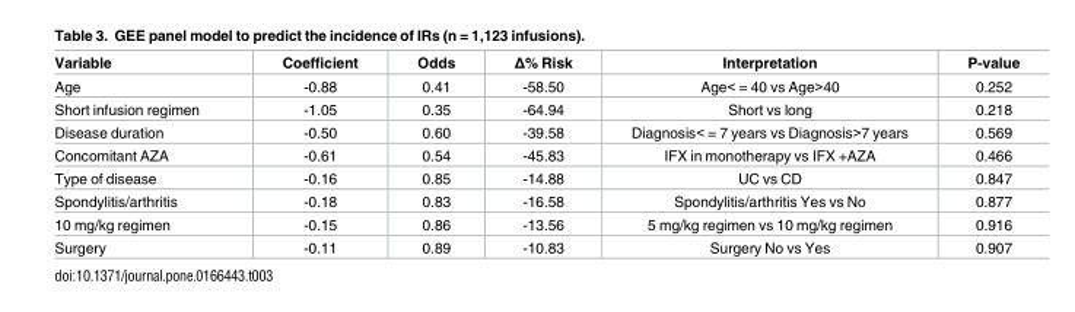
<table><thead><tr><td>Variable</td><td>Coefficient</td><td>Odds</td><td>Δ% Risk</td><td>Interpretation</td><td>P-value</td></tr></thead><tbody><tr><td>Age</td><td>-0.88</td><td>0.41</td><td>-58.50</td><td>Age&lt; = 40 vs Age&gt;40</td><td>0.252</td></tr><tr><td>Short infusion regimen</td><td>-1.05</td><td>0.35</td><td>-64.94</td><td>Short vs long</td><td>0.218</td></tr><tr><td>Disease duration</td><td>-0.50</td><td>0.60</td><td>-39.58</td><td>Diagnosis&lt; = 7 years vs Diagnosis&gt;7 years</td><td>0.569</td></tr><tr><td>Concomitant AZA</td><td>-0.61</td><td>0.54</td><td>-45.83</td><td>IFX in monotherapy vs IFX +AZA</td><td>0.466</td></tr><tr><td>Type of disease</td><td>-0.16</td><td>0.85</td><td>-14.88</td><td>UC vs CD</td><td>0.847</td></tr><tr><td>Spondylitis/arthritis</td><td>-0.18</td><td>0.83</td><td>-16.58</td><td>Spondylitis/arthritis Yes vs No</td><td>0.877</td></tr><tr><td>10 mg/kg regimen</td><td>-0.15</td><td>0.86</td><td>-13.56</td><td>5 mg/kg regimen vs 10 mg/kg regimen</td><td>0.916</td></tr><tr><td>Surgery</td><td>-0.11</td><td>0.89</td><td>-10.83</td><td>Surgery No vs Yes</td><td>0.907</td></tr></tbody></table>